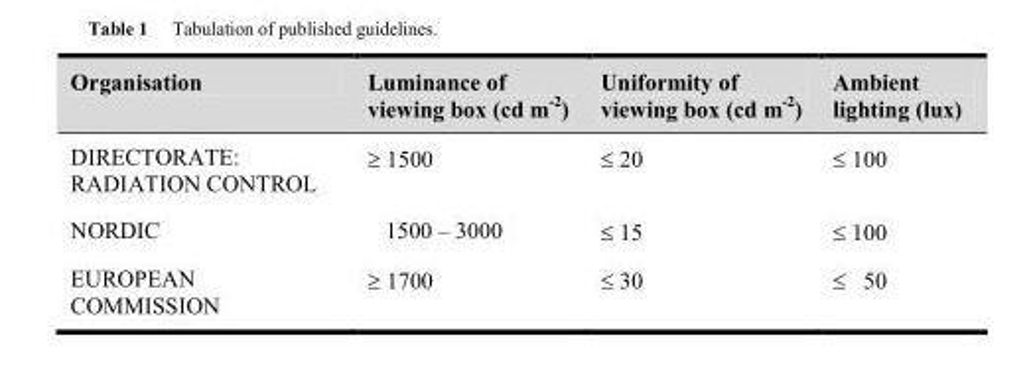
<table><thead><tr><td>Organisation</td><td>Luminance of viewing box (cd m-2)</td><td>Uniformity of viewing box (cd m-2)</td><td>Ambient lighting (lux)</td></tr></thead><tbody><tr><td>DIRECTORATE: RADIATION CONTROL</td><td>≥ 1500</td><td>≤ 20</td><td>≤ 100</td></tr><tr><td>NORDIC</td><td>1500 – 3000</td><td>≤ 15</td><td>≤ 100</td></tr><tr><td>EUROPEAN COMMISSION</td><td>≥ 1700</td><td>≤ 30</td><td>≤ 50</td></tr></tbody></table>